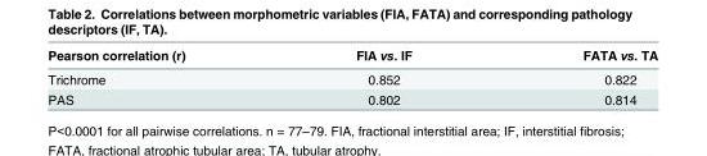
<table><thead><tr><td>Pearson correlation (r)</td><td>FIA vs. IF</td><td>FATA vs. TA</td></tr></thead><tbody><tr><td>Trichrome</td><td>0.852</td><td>0.822</td></tr><tr><td>PAS</td><td>0.802</td><td>0.814</td></tr></tbody></table>